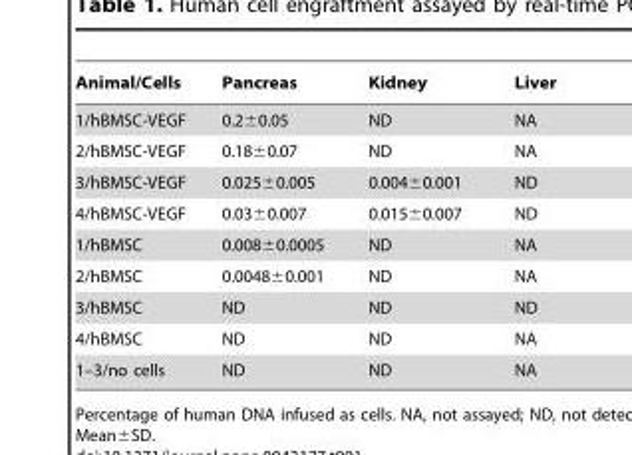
<table><thead><tr><td>Animal/Cells</td><td>Pancreas</td><td>Kidney</td><td>Liver</td></tr></thead><tbody><tr><td>1/hBMSC-VEGF</td><td>0.2±0.05</td><td>ND</td><td>NA</td></tr><tr><td>2/hBMSC-VEGF</td><td>0.18±0.07</td><td>ND</td><td>NA</td></tr><tr><td>3/hBMSC-VEGF</td><td>0.025±0.005</td><td>0.004±0.001</td><td>ND</td></tr><tr><td>4/hBMSC-VEGF</td><td>0.03±0.007</td><td>0.015±0.007</td><td>ND</td></tr><tr><td>1/hBMSC</td><td>0.008±0.0005</td><td>ND</td><td>NA</td></tr><tr><td>2/hBMSC</td><td>0.0048±0.001</td><td>ND</td><td>NA</td></tr><tr><td>3/hBMSC</td><td>ND</td><td>ND</td><td>ND</td></tr><tr><td>4/hBMSC</td><td>ND</td><td>ND</td><td>NA</td></tr><tr><td>1–3/no cells</td><td>ND</td><td>ND</td><td>NA</td></tr></tbody></table>